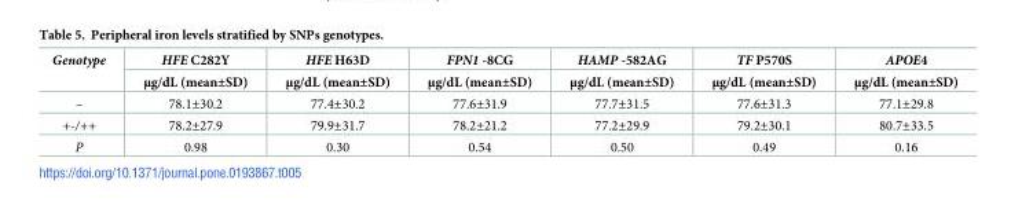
<table><thead><tr><td rowspan="2">Genotype</td><td rowspan="2">HFE C282Y μg/dL (mean±SD)</td><td rowspan="2">HFE H63D μg/dL (mean±SD)</td><td rowspan="2">FPN1 -8CG μg/dL (mean±SD)</td><td rowspan="2">HAMP -582AG μg/dL (mean±SD)</td><td rowspan="2">TF P570S μg/dL (mean±SD)</td><td rowspan="2">APOE4 μg/dL (mean±SD)</td></tr><tr></tr></thead><tbody><tr><td>–</td><td>78.1±30.2</td><td>77.4±30.2</td><td>77.6±31.9</td><td>77.7±31.5</td><td>77.6±31.3</td><td>77.1±29.8</td></tr><tr><td>+-/++</td><td>78.2±27.9</td><td>79.9±31.7</td><td>78.2±21.2</td><td>77.2±29.9</td><td>79.2±30.1</td><td>80.7±33.5</td></tr><tr><td>P</td><td>0.98</td><td>0.30</td><td>0.54</td><td>0.50</td><td>0.49</td><td>0.16</td></tr></tbody></table>